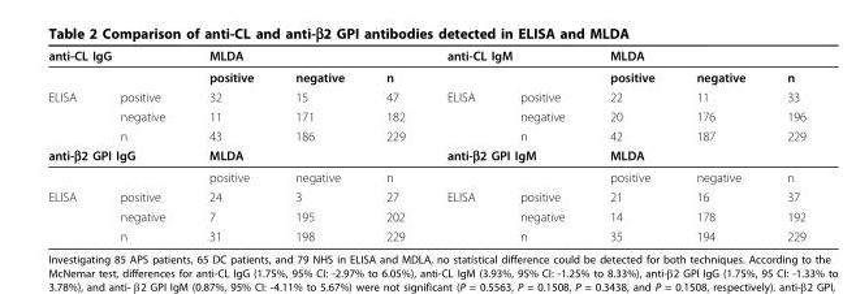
<table><thead><tr><td colspan="2">anti-CL IgG</td><td rowspan="2">MLDA positive</td><td rowspan="2">negative</td><td rowspan="2">n</td><td colspan="2">anti-CL IgM</td><td rowspan="2">MLDA positive</td><td rowspan="2">negative</td><td rowspan="2">n</td></tr><tr><td></td><td></td><td></td><td></td></tr></thead><tbody><tr><td rowspan="3">ELISA</td><td>positive</td><td>32</td><td>15</td><td>47</td><td>ELISA</td><td>positive</td><td>22</td><td>11</td><td>33</td></tr><tr><td>negative</td><td>11</td><td>171</td><td>182</td><td></td><td>negative</td><td>20</td><td>176</td><td>196</td></tr><tr><td>n</td><td>43</td><td>186</td><td>229</td><td></td><td>n</td><td>42</td><td>187</td><td>229</td></tr><tr><td colspan="2">anti-β2 GPI IgG</td><td>MLDA</td><td></td><td></td><td colspan="2">anti-β2 GPI IgM</td><td>MLDA</td><td></td><td></td></tr><tr><td></td><td></td><td>positive</td><td>negative</td><td>n</td><td></td><td></td><td>positive</td><td>negative</td><td>n</td></tr><tr><td rowspan="3">ELISA</td><td>positive</td><td>24</td><td>3</td><td>27</td><td>ELISA</td><td>positive</td><td>21</td><td>16</td><td>37</td></tr><tr><td>negative</td><td>7</td><td>195</td><td>202</td><td></td><td>negative</td><td>14</td><td>178</td><td>192</td></tr><tr><td>n</td><td>31</td><td>198</td><td>229</td><td></td><td>n</td><td>35</td><td>194</td><td>229</td></tr></tbody></table>